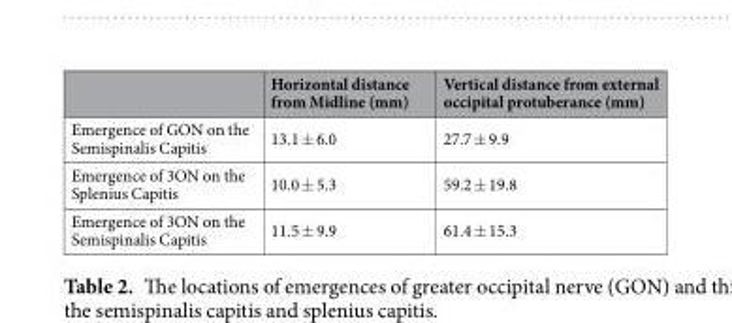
<table><thead><tr><td></td><td>Horizontal distance from Midline (mm)</td><td>Vertical distance from external occipital protuberance (mm)</td></tr></thead><tbody><tr><td>Emergence of GON on the Semispinalis Capitis</td><td>13.1 ± 6.0</td><td>27.7 ± 9.9</td></tr><tr><td>Emergence of 3ON on the Splenius Capitis</td><td>10.0 ± 5.3</td><td>59.2 ± 19.8</td></tr><tr><td>Emergence of 3ON on the Semispinalis Capitis</td><td>11.5 ± 9.9</td><td>61.4 ± 15.3</td></tr></tbody></table>